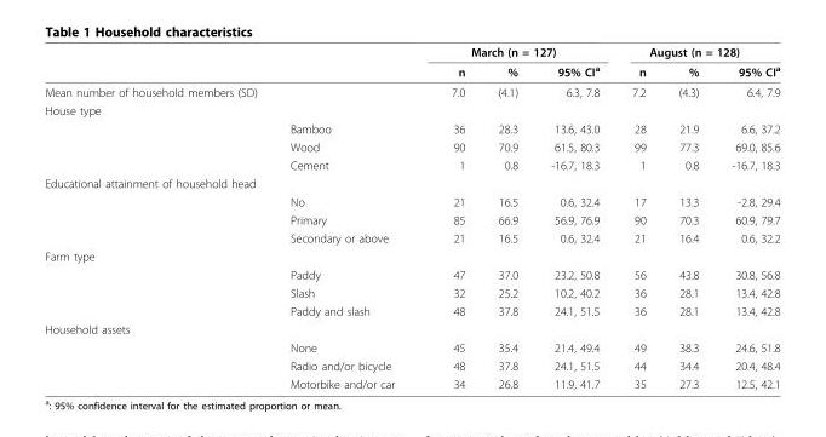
<table><thead><tr><td rowspan="2"></td><td rowspan="2"></td><td colspan="3">March (n = 127)</td><td colspan="3">August (n = 128)</td></tr><tr><td>n</td><td>%</td><td>95% CI<sup>a</sup></td><td>n</td><td>%</td><td>95% CI<sup>a</sup></td></tr></thead><tbody><tr><td>Mean number of household members (SD)</td><td></td><td>7.0</td><td>(4.1)</td><td>6.3, 7.8</td><td>7.2</td><td>(4.3)</td><td>6.4, 7.9</td></tr><tr><td colspan="8">House type</td></tr><tr><td></td><td>Bamboo</td><td>36</td><td>28.3</td><td>13.6, 43.0</td><td>28</td><td>21.9</td><td>6.6, 37.2</td></tr><tr><td></td><td>Wood</td><td>90</td><td>70.9</td><td>61.5, 80.3</td><td>99</td><td>77.3</td><td>69.0, 85.6</td></tr><tr><td></td><td>Cement</td><td>1</td><td>0.8</td><td>-16.7, 18.3</td><td>1</td><td>0.8</td><td>-16.7, 18.3</td></tr><tr><td colspan="8">Educational attainment of household head</td></tr><tr><td></td><td>No</td><td>21</td><td>16.5</td><td>0.6, 32.4</td><td>17</td><td>13.3</td><td>-2.8, 29.4</td></tr><tr><td></td><td>Primary</td><td>85</td><td>66.9</td><td>56.9, 76.9</td><td>90</td><td>70.3</td><td>60.9, 79.7</td></tr><tr><td></td><td>Secondary or above</td><td>21</td><td>16.5</td><td>0.6, 32.4</td><td>21</td><td>16.4</td><td>0.6, 32.2</td></tr><tr><td colspan="8">Farm type</td></tr><tr><td></td><td>Paddy</td><td>47</td><td>37.0</td><td>23.2, 50.8</td><td>56</td><td>43.8</td><td>30.8, 56.8</td></tr><tr><td></td><td>Slash</td><td>32</td><td>25.2</td><td>10.2, 40.2</td><td>36</td><td>28.1</td><td>13.4, 42.8</td></tr><tr><td></td><td>Paddy and slash</td><td>48</td><td>37.8</td><td>24.1, 51.5</td><td>36</td><td>28.1</td><td>13.4, 42.8</td></tr><tr><td colspan="8">Household assets</td></tr><tr><td></td><td>None</td><td>45</td><td>35.4</td><td>21.4, 49.4</td><td>49</td><td>38.3</td><td>24.6, 51.8</td></tr><tr><td></td><td>Radio and/or bicycle</td><td>48</td><td>37.8</td><td>24.1, 51.5</td><td>44</td><td>34.4</td><td>20.4, 48.4</td></tr><tr><td></td><td>Motorbike and/or car</td><td>34</td><td>26.8</td><td>11.9, 41.7</td><td>35</td><td>27.3</td><td>12.5, 42.1</td></tr></tbody></table>